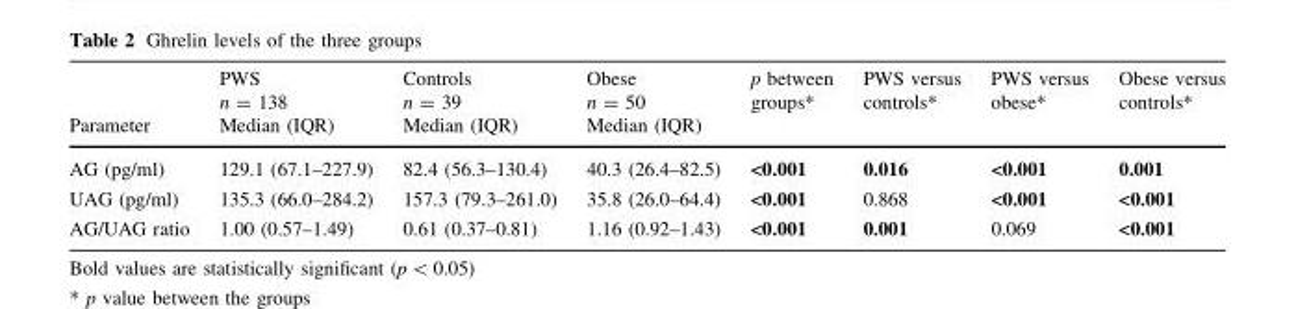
<table><thead><tr><td rowspan="3">Parameter</td><td rowspan="3">PWS n = 138 Median (IQR)</td><td rowspan="3">Controls n = 39 Median (IQR)</td><td rowspan="3">Obese n = 50 Median (IQR)</td><td rowspan="3">p between groups*</td><td rowspan="3">PWS versus controls*</td><td rowspan="3">PWS versus obese*</td><td rowspan="3">Obese versus controls*</td></tr><tr></tr><tr></tr></thead><tbody><tr><td>AG (pg/ml)</td><td>129.1 (67.1–227.9)</td><td>82.4 (56.3–130.4)</td><td>40.3 (26.4–82.5)</td><td>&lt;0.001</td><td>0.016</td><td>&lt;0.001</td><td>0.001</td></tr><tr><td>UAG (pg/ml)</td><td>135.3 (66.0–284.2)</td><td>157.3 (79.3–261.0)</td><td>35.8 (26.0–64.4)</td><td>&lt;0.001</td><td>0.868</td><td>&lt;0.001</td><td>&lt;0.001</td></tr><tr><td>AG/UAG ratio</td><td>1.00 (0.57–1.49)</td><td>0.61 (0.37–0.81)</td><td>1.16 (0.92–1.43)</td><td>&lt;0.001</td><td>0.001</td><td>0.069</td><td>&lt;0.001</td></tr></tbody></table>